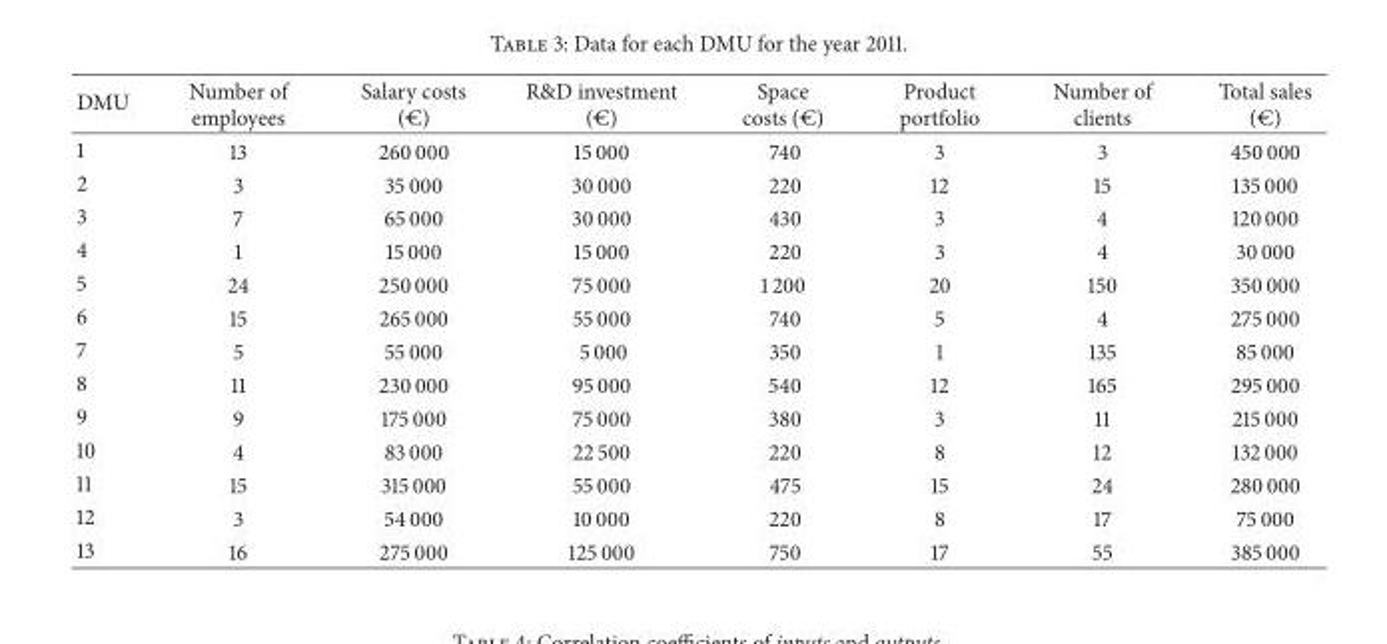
<table><thead><tr><td>DMU</td><td>Number of employees</td><td>Salary costs (€)</td><td>R&amp;D investment (€)</td><td>Space costs (€)</td><td>Product portfolio</td><td>Number of clients</td><td>Total sales (€)</td></tr></thead><tbody><tr><td>1</td><td>13</td><td>260 000</td><td>15 000</td><td>740</td><td>3</td><td>3</td><td>450 000</td></tr><tr><td>2</td><td>3</td><td>35 000</td><td>30 000</td><td>220</td><td>12</td><td>15</td><td>135 000</td></tr><tr><td>3</td><td>7</td><td>65 000</td><td>30 000</td><td>430</td><td>3</td><td>4</td><td>120 000</td></tr><tr><td>4</td><td>1</td><td>15 000</td><td>15 000</td><td>220</td><td>3</td><td>4</td><td>30 000</td></tr><tr><td>5</td><td>24</td><td>250 000</td><td>75 000</td><td>1 200</td><td>20</td><td>150</td><td>350 000</td></tr><tr><td>6</td><td>15</td><td>265 000</td><td>55 000</td><td>740</td><td>5</td><td>4</td><td>275 000</td></tr><tr><td>7</td><td>5</td><td>55 000</td><td>5 000</td><td>350</td><td>1</td><td>135</td><td>85 000</td></tr><tr><td>8</td><td>11</td><td>230 000</td><td>95 000</td><td>540</td><td>12</td><td>165</td><td>295 000</td></tr><tr><td>9</td><td>9</td><td>175 000</td><td>75 000</td><td>380</td><td>3</td><td>11</td><td>215 000</td></tr><tr><td>10</td><td>4</td><td>83 000</td><td>22 500</td><td>220</td><td>8</td><td>12</td><td>132 000</td></tr><tr><td>11</td><td>15</td><td>315 000</td><td>55 000</td><td>475</td><td>15</td><td>24</td><td>280 000</td></tr><tr><td>12</td><td>3</td><td>54 000</td><td>10 000</td><td>220</td><td>8</td><td>17</td><td>75 000</td></tr><tr><td>13</td><td>16</td><td>275 000</td><td>125 000</td><td>750</td><td>17</td><td>55</td><td>385 000</td></tr></tbody></table>